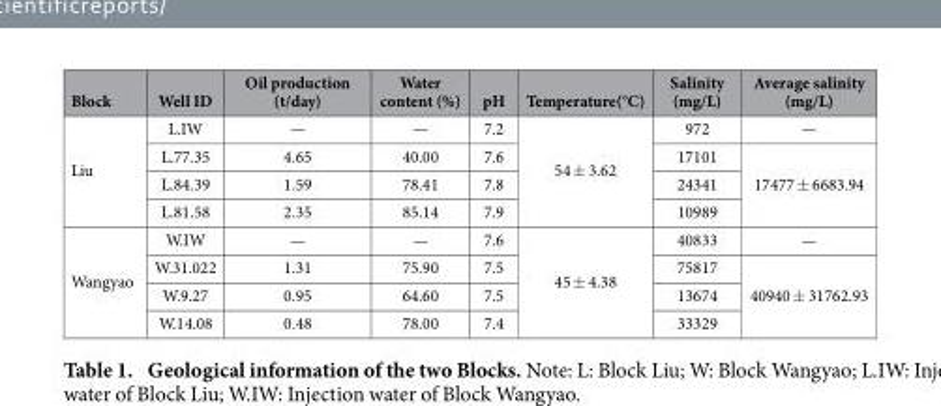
<table><thead><tr><td>Block</td><td>Well ID</td><td>Oil production (t/day)</td><td>Water content (%)</td><td>pH</td><td>Temperature(°C)</td><td>Salinity (mg/L)</td><td>Average salinity (mg/L)</td></tr></thead><tbody><tr><td rowspan="4">Liu</td><td>L.IW</td><td>—</td><td>—</td><td>7.2</td><td rowspan="4">54 ± 3.62</td><td>972</td><td>—</td></tr><tr><td>L.77.35</td><td>4.65</td><td>40.00</td><td>7.6</td><td>17101</td><td rowspan="3">17477 ± 6683.94</td></tr><tr><td>L.84.39</td><td>1.59</td><td>78.41</td><td>7.8</td><td>24341</td></tr><tr><td>L.81.58</td><td>2.35</td><td>85.14</td><td>7.9</td><td>10989</td></tr><tr><td rowspan="4">Wangyao</td><td>W.IW</td><td>—</td><td>—</td><td>7.6</td><td rowspan="4">45 ± 4.38</td><td>40833</td><td>—</td></tr><tr><td>W.31.022</td><td>1.31</td><td>75.90</td><td>7.5</td><td>75817</td><td rowspan="3">40940 ± 31762.93</td></tr><tr><td>W.9.27</td><td>0.95</td><td>64.60</td><td>7.5</td><td>13674</td></tr><tr><td>W.14.08</td><td>0.48</td><td>78.00</td><td>7.4</td><td>33329</td></tr></tbody></table>